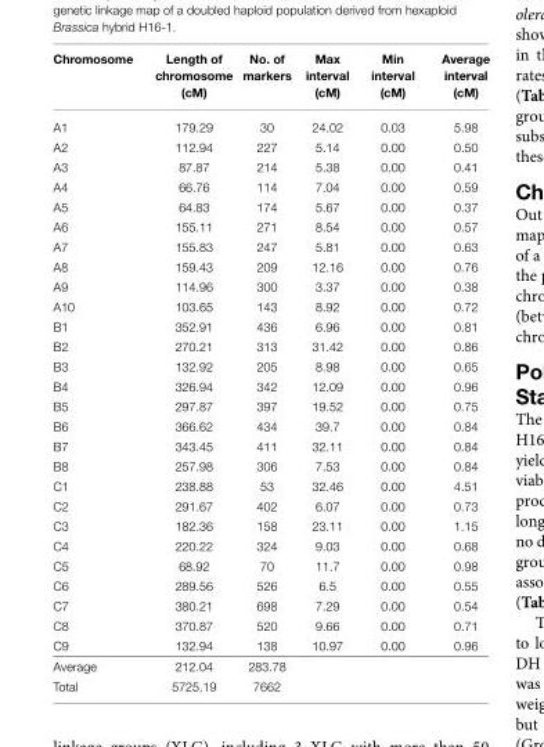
<table><thead><tr><td>Chromosome</td><td>Length of chromosome (cM)</td><td>No. of markers</td><td>Max interval (cM)</td><td>Min interval (cM)</td><td>Average interval (cM)</td></tr></thead><tbody><tr><td>A1</td><td>179.29</td><td>30</td><td>24.02</td><td>0.03</td><td>5.98</td></tr><tr><td>A2</td><td>112.94</td><td>227</td><td>5.14</td><td>0.00</td><td>0.50</td></tr><tr><td>A3</td><td>87.87</td><td>214</td><td>5.38</td><td>0.00</td><td>0.41</td></tr><tr><td>A4</td><td>66.76</td><td>114</td><td>7.04</td><td>0.00</td><td>0.59</td></tr><tr><td>A5</td><td>64.83</td><td>174</td><td>5.67</td><td>0.00</td><td>0.37</td></tr><tr><td>A6</td><td>155.11</td><td>271</td><td>8.54</td><td>0.00</td><td>0.57</td></tr><tr><td>A7</td><td>155.83</td><td>247</td><td>5.81</td><td>0.00</td><td>0.63</td></tr><tr><td>A8</td><td>159.43</td><td>209</td><td>12.16</td><td>0.00</td><td>0.76</td></tr><tr><td>A9</td><td>114.96</td><td>300</td><td>3.37</td><td>0.00</td><td>0.38</td></tr><tr><td>A10</td><td>103.65</td><td>143</td><td>8.92</td><td>0.00</td><td>0.72</td></tr><tr><td>B1</td><td>352.91</td><td>436</td><td>6.96</td><td>0.00</td><td>0.81</td></tr><tr><td>B2</td><td>270.21</td><td>313</td><td>31.42</td><td>0.00</td><td>0.86</td></tr><tr><td>B3</td><td>132.92</td><td>205</td><td>8.98</td><td>0.00</td><td>0.65</td></tr><tr><td>B4</td><td>326.94</td><td>342</td><td>12.09</td><td>0.00</td><td>0.96</td></tr><tr><td>B5</td><td>297.87</td><td>397</td><td>19.52</td><td>0.00</td><td>0.75</td></tr><tr><td>B6</td><td>366.62</td><td>434</td><td>39.7</td><td>0.00</td><td>0.84</td></tr><tr><td>B7</td><td>343.45</td><td>411</td><td>32.11</td><td>0.00</td><td>0.84</td></tr><tr><td>B8</td><td>257.98</td><td>306</td><td>7.53</td><td>0.00</td><td>0.84</td></tr><tr><td>C1</td><td>238.88</td><td>53</td><td>32.46</td><td>0.00</td><td>4.51</td></tr><tr><td>C2</td><td>291.67</td><td>402</td><td>6.07</td><td>0.00</td><td>0.73</td></tr><tr><td>C3</td><td>182.36</td><td>158</td><td>23.11</td><td>0.00</td><td>1.15</td></tr><tr><td>C4</td><td>220.22</td><td>324</td><td>9.03</td><td>0.00</td><td>0.68</td></tr><tr><td>C5</td><td>68.92</td><td>70</td><td>11.7</td><td>0.00</td><td>0.98</td></tr><tr><td>C6</td><td>289.56</td><td>526</td><td>6.5</td><td>0.00</td><td>0.55</td></tr><tr><td>C7</td><td>380.21</td><td>698</td><td>7.29</td><td>0.00</td><td>0.54</td></tr><tr><td>C8</td><td>370.87</td><td>520</td><td>9.66</td><td>0.00</td><td>0.71</td></tr><tr><td>C9</td><td>132.94</td><td>138</td><td>10.97</td><td>0.00</td><td>0.96</td></tr><tr><td>Average</td><td>212.04</td><td>283.78</td><td></td><td></td><td></td></tr><tr><td>Total</td><td>5725.19</td><td>7662</td><td></td><td></td><td></td></tr></tbody></table>